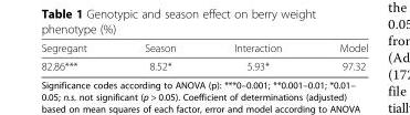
<table><thead><tr><td>Segregant</td><td>Season</td><td>Interaction</td><td>Model</td></tr></thead><tbody><tr><td>82.86***</td><td>8.52*</td><td>5.93*</td><td>97.32</td></tr></tbody></table>